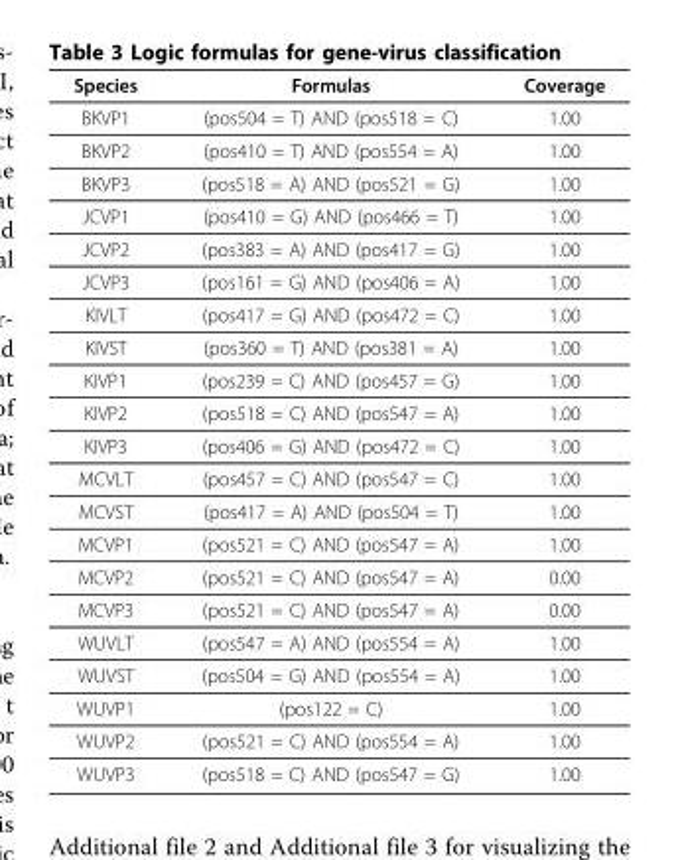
<table><thead><tr><td>Species</td><td>Formulas</td><td>Coverage</td></tr></thead><tbody><tr><td>BKVP1</td><td>(pos504 = T) AND (pos518 = C)</td><td>1.00</td></tr><tr><td>BKVP2</td><td>(pos410 = T) AND (pos554 = A)</td><td>1.00</td></tr><tr><td>BKVP3</td><td>(pos518 = A) AND (pos521 = G)</td><td>1.00</td></tr><tr><td>JCVP1</td><td>(pos410 = G) AND (pos466 = T)</td><td>1.00</td></tr><tr><td>JCVP2</td><td>(pos383 = A) AND (pos417 = G)</td><td>1.00</td></tr><tr><td>JCVP3</td><td>(pos161 = G) AND (pos406 = A)</td><td>1.00</td></tr><tr><td>KIVLT</td><td>(pos417 = G) AND (pos472 = C)</td><td>1.00</td></tr><tr><td>KIVST</td><td>(pos360 = T) AND (pos381 = A)</td><td>1.00</td></tr><tr><td>KIVP1</td><td>(pos239 = C) AND (pos457 = G)</td><td>1.00</td></tr><tr><td>KIVP2</td><td>(pos518 = C) AND (pos547 = A)</td><td>1.00</td></tr><tr><td>KIVP3</td><td>(pos406 = G) AND (pos472 = C)</td><td>1.00</td></tr><tr><td>MCVLT</td><td>(pos457 = C) AND (pos547 = C)</td><td>1.00</td></tr><tr><td>MCVST</td><td>(pos417 = A) AND (pos504 = T)</td><td>1.00</td></tr><tr><td>MCVP1</td><td>(pos521 = C) AND (pos547 = A)</td><td>1.00</td></tr><tr><td>MCVP2</td><td>(pos521 = C) AND (pos547 = A)</td><td>0.00</td></tr><tr><td>MCVP3</td><td>(pos521 = C) AND (pos547 = A)</td><td>0.00</td></tr><tr><td>WUVLT</td><td>(pos547 = A) AND (pos554 = A)</td><td>1.00</td></tr><tr><td>WUVST</td><td>(pos504 = G) AND (pos554 = A)</td><td>1.00</td></tr><tr><td>WUVP1</td><td>(pos122 = C)</td><td>1.00</td></tr><tr><td>WUVP2</td><td>(pos521 = C) AND (pos554 = A)</td><td>1.00</td></tr><tr><td>WUVP3</td><td>(pos518 = C) AND (pos547 = G)</td><td>1.00</td></tr></tbody></table>